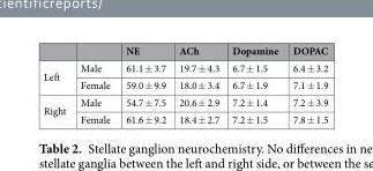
<table><thead><tr><td></td><td></td><td>NE</td><td>ACh</td><td>Dopamine</td><td>DOPAC</td></tr></thead><tbody><tr><td rowspan="2">Left</td><td>Male</td><td>61.1 ± 3.7</td><td>19.7 ± 4.3</td><td>6.7 ± 1.5</td><td>6.4 ± 3.2</td></tr><tr><td>Female</td><td>59.0 ± 9.9</td><td>18.0 ± 3.4</td><td>6.7 ± 1.9</td><td>7.1 ± 1.9</td></tr><tr><td rowspan="2">Right</td><td>Male</td><td>54.7 ± 7.5</td><td>20.6 ± 2.9</td><td>7.2 ± 1.4</td><td>7.2 ± 3.9</td></tr><tr><td>Female</td><td>61.6 ± 9.2</td><td>18.4 ± 2.7</td><td>7.2 ± 1.5</td><td>7.8 ± 1.5</td></tr></tbody></table>